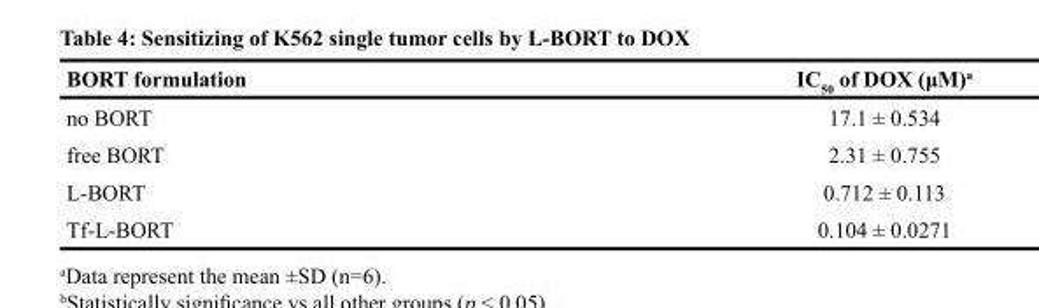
<table><thead><tr><td>BORT formulation</td><td>IC<sub>50</sub> of DOX (μM)<sup>a</sup></td></tr></thead><tbody><tr><td>no BORT</td><td>17.1 ± 0.534</td></tr><tr><td>free BORT</td><td>2.31 ± 0.755</td></tr><tr><td>L-BORT</td><td>0.712 ± 0.113</td></tr><tr><td>Tf-L-BORT</td><td>0.104 ± 0.0271</td></tr></tbody></table>